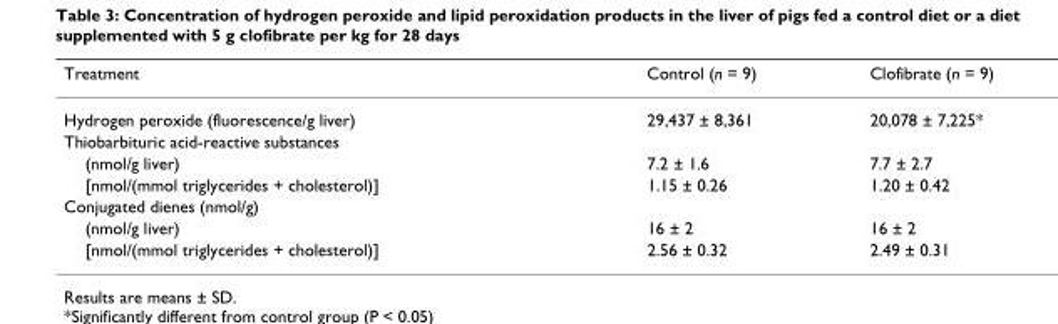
<table><thead><tr><td>Treatment</td><td>Control (n = 9)</td><td>Clofibrate (n = 9)</td></tr></thead><tbody><tr><td>Hydrogen peroxide (fluorescence/g liver)</td><td>29,437 ± 8,361</td><td>20,078 ± 7,225*</td></tr><tr><td colspan="3">Thiobarbituric acid-reactive substances</td></tr><tr><td>(nmol/g liver)</td><td>7.2 ± 1.6</td><td>7.7 ± 2.7</td></tr><tr><td>[nmol/(mmol triglycerides + cholesterol)]</td><td>1.15 ± 0.26</td><td>1.20 ± 0.42</td></tr><tr><td colspan="3">Conjugated dienes (nmol/g)</td></tr><tr><td>(nmol/g liver)</td><td>16 ± 2</td><td>16 ± 2</td></tr><tr><td>[nmol/(mmol triglycerides + cholesterol)]</td><td>2.56 ± 0.32</td><td>2.49 ± 0.31</td></tr></tbody></table>